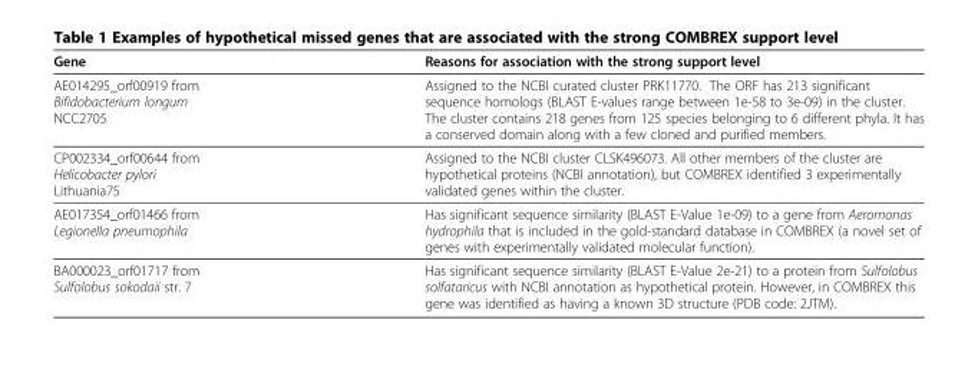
<table><thead><tr><td>Gene</td><td>Reasons for association with the strong support level</td></tr></thead><tbody><tr><td>AE014295_orf00919 from Bifidobacterium longum NCC2705</td><td>Assigned to the NCBI curated cluster PRK11770. The ORF has 213 significant sequence homologs (BLAST E-values range between 1e-58 to 3e-09) in the cluster. The cluster contains 218 genes from 125 species belonging to 6 different phyla. It has a conserved domain along with a few cloned and purified members.</td></tr><tr><td>CP002334_orf00644 from Helicobacter pylori Lithuania75</td><td>Assigned to the NCBI cluster CLSK496073. All other members of the cluster are hypothetical proteins (NCBI annotation), but COMBREX identified 3 experimentally validated genes within the cluster.</td></tr><tr><td>AE017354_orf01466 from Legionella pneumophila</td><td>Has significant sequence similarity (BLAST E-Value 1e-09) to a gene from Aeromonas hydrophila that is included in the gold-standard database in COMBREX (a novel set of genes with experimentally validated molecular function).</td></tr><tr><td>BA000023_orf01717 from Sulfolobus sokodaii str. 7</td><td>Has significant sequence similarity (BLAST E-Value 2e-21) to a protein from Sulfolobus solfataricus with NCBI annotation as hypothetical protein. However, in COMBREX this gene was identified as having a known 3D structure (PDB code: 2JTM).</td></tr></tbody></table>